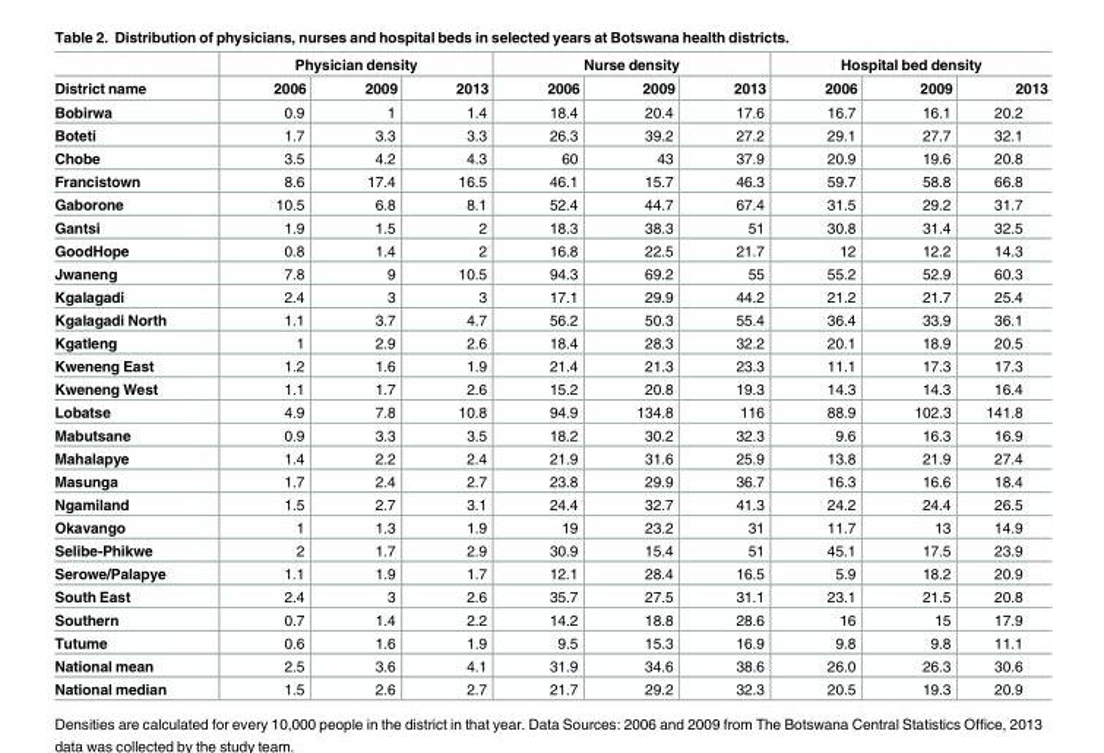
<table><thead><tr><td rowspan="2">District name</td><td colspan="3">Physician density</td><td colspan="3">Nurse density</td><td colspan="3">Hospital bed density</td></tr><tr><td>2006</td><td>2009</td><td>2013</td><td>2006</td><td>2009</td><td>2013</td><td>2006</td><td>2009</td><td>2013</td></tr></thead><tbody><tr><td>Bobirwa</td><td>0.9</td><td>1</td><td>1.4</td><td>18.4</td><td>20.4</td><td>17.6</td><td>16.7</td><td>16.1</td><td>20.2</td></tr><tr><td>Boteti</td><td>1.7</td><td>3.3</td><td>3.3</td><td>26.3</td><td>39.2</td><td>27.2</td><td>29.1</td><td>27.7</td><td>32.1</td></tr><tr><td>Chobe</td><td>3.5</td><td>4.2</td><td>4.3</td><td>60</td><td>43</td><td>37.9</td><td>20.9</td><td>19.6</td><td>20.8</td></tr><tr><td>Francistown</td><td>8.6</td><td>17.4</td><td>16.5</td><td>46.1</td><td>15.7</td><td>46.3</td><td>59.7</td><td>58.8</td><td>66.8</td></tr><tr><td>Gaborone</td><td>10.5</td><td>6.8</td><td>8.1</td><td>52.4</td><td>44.7</td><td>67.4</td><td>31.5</td><td>29.2</td><td>31.7</td></tr><tr><td>Gantsi</td><td>1.9</td><td>1.5</td><td>2</td><td>18.3</td><td>38.3</td><td>51</td><td>30.8</td><td>31.4</td><td>32.5</td></tr><tr><td>GoodHope</td><td>0.8</td><td>1.4</td><td>2</td><td>16.8</td><td>22.5</td><td>21.7</td><td>12</td><td>12.2</td><td>14.3</td></tr><tr><td>Jwaneng</td><td>7.8</td><td>9</td><td>10.5</td><td>94.3</td><td>69.2</td><td>55</td><td>55.2</td><td>52.9</td><td>60.3</td></tr><tr><td>Kgalagadi</td><td>2.4</td><td>3</td><td>3</td><td>17.1</td><td>29.9</td><td>44.2</td><td>21.2</td><td>21.7</td><td>25.4</td></tr><tr><td>Kgalagadi North</td><td>1.1</td><td>3.7</td><td>4.7</td><td>56.2</td><td>50.3</td><td>55.4</td><td>36.4</td><td>33.9</td><td>36.1</td></tr><tr><td>Kgatleng</td><td>1</td><td>2.9</td><td>2.6</td><td>18.4</td><td>28.3</td><td>32.2</td><td>20.1</td><td>18.9</td><td>20.5</td></tr><tr><td>Kweneng East</td><td>1.2</td><td>1.6</td><td>1.9</td><td>21.4</td><td>21.3</td><td>23.3</td><td>11.1</td><td>17.3</td><td>17.3</td></tr><tr><td>Kweneng West</td><td>1.1</td><td>1.7</td><td>2.6</td><td>15.2</td><td>20.8</td><td>19.3</td><td>14.3</td><td>14.3</td><td>16.4</td></tr><tr><td>Lobatse</td><td>4.9</td><td>7.8</td><td>10.8</td><td>94.9</td><td>134.8</td><td>116</td><td>88.9</td><td>102.3</td><td>141.8</td></tr><tr><td>Mabutsane</td><td>0.9</td><td>3.3</td><td>3.5</td><td>18.2</td><td>30.2</td><td>32.3</td><td>9.6</td><td>16.3</td><td>16.9</td></tr><tr><td>Mahalapye</td><td>1.4</td><td>2.2</td><td>2.4</td><td>21.9</td><td>31.6</td><td>25.9</td><td>13.8</td><td>21.9</td><td>27.4</td></tr><tr><td>Masunga</td><td>1.7</td><td>2.4</td><td>2.7</td><td>23.8</td><td>29.9</td><td>36.7</td><td>16.3</td><td>16.6</td><td>18.4</td></tr><tr><td>Ngamiland</td><td>1.5</td><td>2.7</td><td>3.1</td><td>24.4</td><td>32.7</td><td>41.3</td><td>24.2</td><td>24.4</td><td>26.5</td></tr><tr><td>Okavango</td><td>1</td><td>1.3</td><td>1.9</td><td>19</td><td>23.2</td><td>31</td><td>11.7</td><td>13</td><td>14.9</td></tr><tr><td>Selibe-Phikwe</td><td>2</td><td>1.7</td><td>2.9</td><td>30.9</td><td>15.4</td><td>51</td><td>45.1</td><td>17.5</td><td>23.9</td></tr><tr><td>Serowe/Palapye</td><td>1.1</td><td>1.9</td><td>1.7</td><td>12.1</td><td>28.4</td><td>16.5</td><td>5.9</td><td>18.2</td><td>20.9</td></tr><tr><td>South East</td><td>2.4</td><td>3</td><td>2.6</td><td>35.7</td><td>27.5</td><td>31.1</td><td>23.1</td><td>21.5</td><td>20.8</td></tr><tr><td>Southern</td><td>0.7</td><td>1.4</td><td>2.2</td><td>14.2</td><td>18.8</td><td>28.6</td><td>16</td><td>15</td><td>17.9</td></tr><tr><td>Tutume</td><td>0.6</td><td>1.6</td><td>1.9</td><td>9.5</td><td>15.3</td><td>16.9</td><td>9.8</td><td>9.8</td><td>11.1</td></tr><tr><td>National mean</td><td>2.5</td><td>3.6</td><td>4.1</td><td>31.9</td><td>34.6</td><td>38.6</td><td>26.0</td><td>26.3</td><td>30.6</td></tr><tr><td>National median</td><td>1.5</td><td>2.6</td><td>2.7</td><td>21.7</td><td>29.2</td><td>32.3</td><td>20.5</td><td>19.3</td><td>20.9</td></tr></tbody></table>